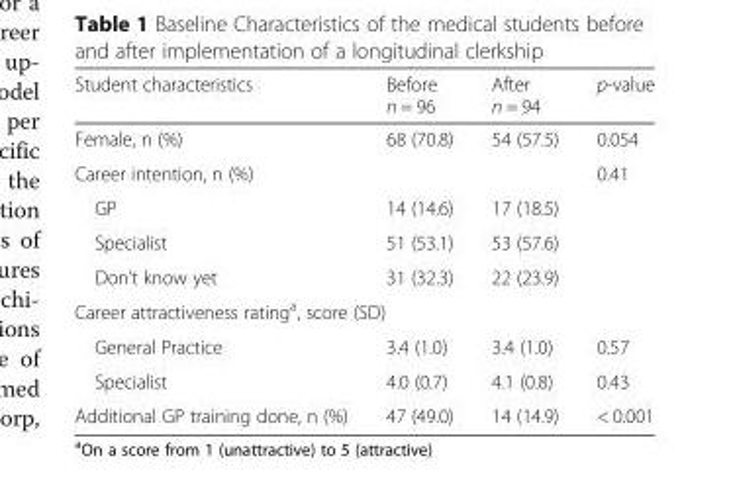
<table><thead><tr><td>Student characteristics</td><td>Before n = 96</td><td>After n = 94</td><td>p-value</td></tr></thead><tbody><tr><td>Female, n (%)</td><td>68 (70.8)</td><td>54 (57.5)</td><td>0.054</td></tr><tr><td>Career intention, n (%)</td><td></td><td></td><td>0.41</td></tr><tr><td>GP</td><td>14 (14.6)</td><td>17 (18.5)</td><td></td></tr><tr><td>Specialist</td><td>51 (53.1)</td><td>53 (57.6)</td><td></td></tr><tr><td>Don’t know yet</td><td>31 (32.3)</td><td>22 (23.9)</td><td></td></tr><tr><td colspan="4">Career attractiveness rating<sup>a</sup>, score (SD)</td></tr><tr><td>General Practice</td><td>3.4 (1.0)</td><td>3.4 (1.0)</td><td>0.57</td></tr><tr><td>Specialist</td><td>4.0 (0.7)</td><td>4.1 (0.8)</td><td>0.43</td></tr><tr><td>Additional GP training done, n (%)</td><td>47 (49.0)</td><td>14 (14.9)</td><td>&lt; 0.001</td></tr></tbody></table>